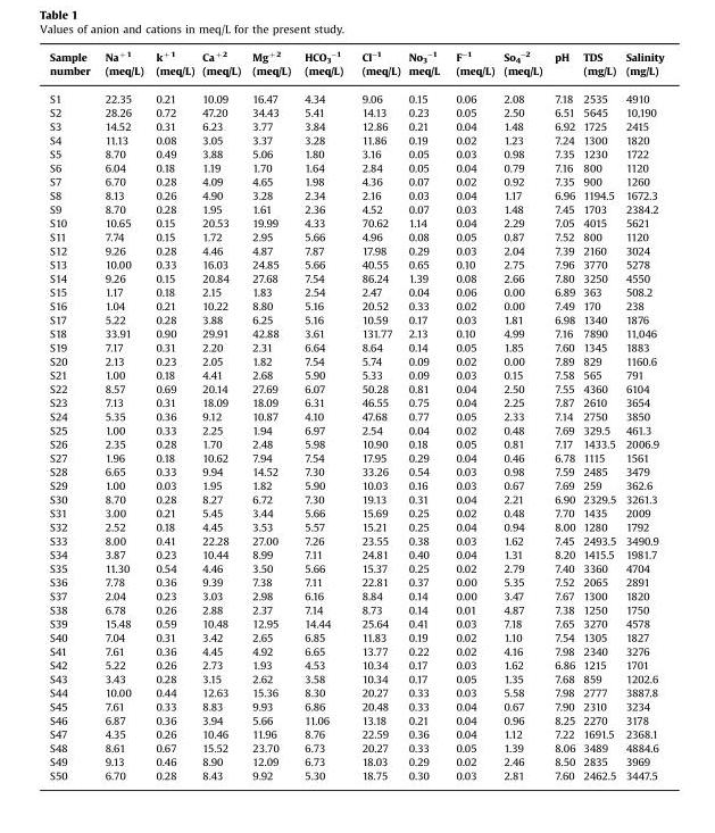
<table><thead><tr><td>Sample number</td><td>Na<sup>+1</sup> (meq/L)</td><td>k<sup>+1</sup> (meq/L)</td><td>Ca<sup>+2</sup> (meq/L)</td><td>Mg<sup>+2</sup> (meq/L)</td><td>HCO<sub>3</sub> <sup>−1</sup> (meq/L)</td><td>Cl<sup>−1</sup> (meq/L)</td><td>No<sub>3</sub> <sup>−1</sup> meq/L</td><td>F<sup>−1</sup> (meq/L)</td><td>So<sub>4</sub> <sup>−2</sup> (meq/L)</td><td>pH</td><td>TDS (mg/L)</td><td>Salinity (mg/L)</td></tr></thead><tbody><tr><td>S1</td><td>22.35</td><td>0.21</td><td>10.09</td><td>16.47</td><td>4.34</td><td>9.06</td><td>0.15</td><td>0.06</td><td>2.08</td><td>7.18</td><td>2535</td><td>4910</td></tr><tr><td>S2</td><td>28.26</td><td>0.72</td><td>47.20</td><td>34.43</td><td>5.41</td><td>14.13</td><td>0.23</td><td>0.05</td><td>2.50</td><td>6.51</td><td>5645</td><td>10,190</td></tr><tr><td>S3</td><td>14.52</td><td>0.31</td><td>6.23</td><td>3.77</td><td>3.84</td><td>12.86</td><td>0.21</td><td>0.04</td><td>1.48</td><td>6.92</td><td>1725</td><td>2415</td></tr><tr><td>S4</td><td>11.13</td><td>0.08</td><td>3.05</td><td>3.37</td><td>3.28</td><td>11.86</td><td>0.19</td><td>0.02</td><td>1.23</td><td>7.24</td><td>1300</td><td>1820</td></tr><tr><td>S5</td><td>8.70</td><td>0.49</td><td>3.88</td><td>5.06</td><td>1.80</td><td>3.16</td><td>0.05</td><td>0.03</td><td>0.98</td><td>7.35</td><td>1230</td><td>1722</td></tr><tr><td>S6</td><td>6.04</td><td>0.18</td><td>1.19</td><td>1.70</td><td>1.64</td><td>2.84</td><td>0.05</td><td>0.04</td><td>0.79</td><td>7.16</td><td>800</td><td>1120</td></tr><tr><td>S7</td><td>6.70</td><td>0.28</td><td>4.09</td><td>4.65</td><td>1.98</td><td>4.36</td><td>0.07</td><td>0.02</td><td>0.92</td><td>7.35</td><td>900</td><td>1260</td></tr><tr><td>S8</td><td>8.13</td><td>0.26</td><td>4.90</td><td>3.28</td><td>2.34</td><td>2.16</td><td>0.03</td><td>0.04</td><td>1.17</td><td>6.96</td><td>1194.5</td><td>1672.3</td></tr><tr><td>S9</td><td>8.70</td><td>0.28</td><td>1.95</td><td>1.61</td><td>2.36</td><td>4.52</td><td>0.07</td><td>0.03</td><td>1.48</td><td>7.45</td><td>1703</td><td>2384.2</td></tr><tr><td>S10</td><td>10.65</td><td>0.15</td><td>20.53</td><td>19.99</td><td>4.33</td><td>70.62</td><td>1.14</td><td>0.04</td><td>2.29</td><td>7.05</td><td>4015</td><td>5621</td></tr><tr><td>S11</td><td>7.74</td><td>0.15</td><td>1.72</td><td>2.95</td><td>5.66</td><td>4.96</td><td>0.08</td><td>0.05</td><td>0.87</td><td>7.52</td><td>800</td><td>1120</td></tr><tr><td>S12</td><td>9.26</td><td>0.28</td><td>4.46</td><td>4.87</td><td>7.87</td><td>17.98</td><td>0.29</td><td>0.03</td><td>2.04</td><td>7.39</td><td>2160</td><td>3024</td></tr><tr><td>S13</td><td>10.00</td><td>0.33</td><td>16.03</td><td>24.85</td><td>5.66</td><td>40.55</td><td>0.65</td><td>0.10</td><td>2.75</td><td>7.96</td><td>3770</td><td>5278</td></tr><tr><td>S14</td><td>9.26</td><td>0.15</td><td>20.84</td><td>27.68</td><td>7.54</td><td>86.24</td><td>1.39</td><td>0.08</td><td>2.66</td><td>7.80</td><td>3250</td><td>4550</td></tr><tr><td>S15</td><td>1.17</td><td>0.18</td><td>2.15</td><td>1.83</td><td>2.54</td><td>2.47</td><td>0.04</td><td>0.06</td><td>0.00</td><td>6.89</td><td>363</td><td>508.2</td></tr><tr><td>S16</td><td>1.04</td><td>0.21</td><td>10.22</td><td>8.80</td><td>5.16</td><td>20.52</td><td>0.33</td><td>0.02</td><td>0.00</td><td>7.49</td><td>170</td><td>238</td></tr><tr><td>S17</td><td>5.22</td><td>0.28</td><td>3.88</td><td>6.25</td><td>5.16</td><td>10.59</td><td>0.17</td><td>0.03</td><td>1.81</td><td>6.98</td><td>1340</td><td>1876</td></tr><tr><td>S18</td><td>33.91</td><td>0.90</td><td>29.91</td><td>42.88</td><td>3.61</td><td>131.77</td><td>2.13</td><td>0.10</td><td>4.99</td><td>7.16</td><td>7890</td><td>11,046</td></tr><tr><td>S19</td><td>7.17</td><td>0.31</td><td>2.20</td><td>2.31</td><td>6.64</td><td>8.64</td><td>0.14</td><td>0.05</td><td>1.85</td><td>7.60</td><td>1345</td><td>1883</td></tr><tr><td>S20</td><td>2.13</td><td>0.23</td><td>2.05</td><td>1.82</td><td>7.54</td><td>5.74</td><td>0.09</td><td>0.02</td><td>0.00</td><td>7.89</td><td>829</td><td>1160.6</td></tr><tr><td>S21</td><td>1.00</td><td>0.18</td><td>4.41</td><td>2.68</td><td>5.90</td><td>5.33</td><td>0.09</td><td>0.03</td><td>0.15</td><td>7.58</td><td>565</td><td>791</td></tr><tr><td>S22</td><td>8.57</td><td>0.69</td><td>20.14</td><td>27.69</td><td>6.07</td><td>50.28</td><td>0.81</td><td>0.04</td><td>2.50</td><td>7.55</td><td>4360</td><td>6104</td></tr><tr><td>S23</td><td>7.13</td><td>0.31</td><td>18.09</td><td>18.09</td><td>6.31</td><td>46.55</td><td>0.75</td><td>0.04</td><td>2.25</td><td>7.87</td><td>2610</td><td>3654</td></tr><tr><td>S24</td><td>5.35</td><td>0.36</td><td>9.12</td><td>10.87</td><td>4.10</td><td>47.68</td><td>0.77</td><td>0.05</td><td>2.33</td><td>7.14</td><td>2750</td><td>3850</td></tr><tr><td>S25</td><td>1.00</td><td>0.33</td><td>2.25</td><td>1.94</td><td>6.97</td><td>2.54</td><td>0.04</td><td>0.02</td><td>0.48</td><td>7.69</td><td>329.5</td><td>461.3</td></tr><tr><td>S26</td><td>2.35</td><td>0.28</td><td>1.70</td><td>2.48</td><td>5.98</td><td>10.90</td><td>0.18</td><td>0.05</td><td>0.81</td><td>7.17</td><td>1433.5</td><td>2006.9</td></tr><tr><td>S27</td><td>1.96</td><td>0.18</td><td>10.62</td><td>7.94</td><td>7.54</td><td>17.95</td><td>0.29</td><td>0.04</td><td>0.46</td><td>6.78</td><td>1115</td><td>1561</td></tr><tr><td>S28</td><td>6.65</td><td>0.33</td><td>9.94</td><td>14.52</td><td>7.30</td><td>33.26</td><td>0.54</td><td>0.03</td><td>0.98</td><td>7.59</td><td>2485</td><td>3479</td></tr><tr><td>S29</td><td>1.00</td><td>0.03</td><td>1.95</td><td>1.82</td><td>5.90</td><td>10.03</td><td>0.16</td><td>0.03</td><td>0.67</td><td>7.69</td><td>259</td><td>362.6</td></tr><tr><td>S30</td><td>8.70</td><td>0.28</td><td>8.27</td><td>6.72</td><td>7.30</td><td>19.13</td><td>0.31</td><td>0.04</td><td>2.21</td><td>6.90</td><td>2329.5</td><td>3261.3</td></tr><tr><td>S31</td><td>3.00</td><td>0.21</td><td>5.45</td><td>3.44</td><td>5.66</td><td>15.69</td><td>0.25</td><td>0.02</td><td>0.48</td><td>7.70</td><td>1435</td><td>2009</td></tr><tr><td>S32</td><td>2.52</td><td>0.18</td><td>4.45</td><td>3.53</td><td>5.57</td><td>15.21</td><td>0.25</td><td>0.04</td><td>0.94</td><td>8.00</td><td>1280</td><td>1792</td></tr><tr><td>S33</td><td>8.00</td><td>0.41</td><td>22.28</td><td>27.00</td><td>7.26</td><td>23.55</td><td>0.38</td><td>0.03</td><td>1.62</td><td>7.45</td><td>2493.5</td><td>3490.9</td></tr><tr><td>S34</td><td>3.87</td><td>0.23</td><td>10.44</td><td>8.99</td><td>7.11</td><td>24.81</td><td>0.40</td><td>0.04</td><td>1.31</td><td>8.20</td><td>1415.5</td><td>1981.7</td></tr><tr><td>S35</td><td>11.30</td><td>0.54</td><td>4.46</td><td>3.50</td><td>5.66</td><td>15.37</td><td>0.25</td><td>0.02</td><td>2.79</td><td>7.40</td><td>3360</td><td>4704</td></tr><tr><td>S36</td><td>7.78</td><td>0.36</td><td>9.39</td><td>7.38</td><td>7.11</td><td>22.81</td><td>0.37</td><td>0.00</td><td>5.35</td><td>7.52</td><td>2065</td><td>2891</td></tr><tr><td>S37</td><td>2.04</td><td>0.23</td><td>3.03</td><td>2.98</td><td>6.16</td><td>8.84</td><td>0.14</td><td>0.00</td><td>3.47</td><td>7.67</td><td>1300</td><td>1820</td></tr><tr><td>S38</td><td>6.78</td><td>0.26</td><td>2.88</td><td>2.37</td><td>7.14</td><td>8.73</td><td>0.14</td><td>0.01</td><td>4.87</td><td>7.38</td><td>1250</td><td>1750</td></tr><tr><td>S39</td><td>15.48</td><td>0.59</td><td>10.48</td><td>12.95</td><td>14.44</td><td>25.64</td><td>0.41</td><td>0.03</td><td>7.18</td><td>7.65</td><td>3270</td><td>4578</td></tr><tr><td>S40</td><td>7.04</td><td>0.31</td><td>3.42</td><td>2.65</td><td>6.85</td><td>11.83</td><td>0.19</td><td>0.02</td><td>1.10</td><td>7.54</td><td>1305</td><td>1827</td></tr><tr><td>S41</td><td>7.61</td><td>0.36</td><td>4.45</td><td>4.92</td><td>6.65</td><td>13.77</td><td>0.22</td><td>0.02</td><td>4.16</td><td>7.98</td><td>2340</td><td>3276</td></tr><tr><td>S42</td><td>5.22</td><td>0.26</td><td>2.73</td><td>1.93</td><td>4.53</td><td>10.34</td><td>0.17</td><td>0.03</td><td>1.62</td><td>6.86</td><td>1215</td><td>1701</td></tr><tr><td>S43</td><td>3.43</td><td>0.28</td><td>3.15</td><td>2.62</td><td>3.58</td><td>10.34</td><td>0.17</td><td>0.05</td><td>1.35</td><td>7.68</td><td>859</td><td>1202.6</td></tr><tr><td>S44</td><td>10.00</td><td>0.44</td><td>12.63</td><td>15.36</td><td>8.30</td><td>20.27</td><td>0.33</td><td>0.03</td><td>5.58</td><td>7.98</td><td>2777</td><td>3887.8</td></tr><tr><td>S45</td><td>7.61</td><td>0.33</td><td>8.83</td><td>9.93</td><td>6.86</td><td>20.48</td><td>0.33</td><td>0.04</td><td>0.67</td><td>7.90</td><td>2310</td><td>3234</td></tr><tr><td>S46</td><td>6.87</td><td>0.36</td><td>3.94</td><td>5.66</td><td>11.06</td><td>13.18</td><td>0.21</td><td>0.04</td><td>0.96</td><td>8.25</td><td>2270</td><td>3178</td></tr><tr><td>S47</td><td>4.35</td><td>0.26</td><td>10.46</td><td>11.96</td><td>8.76</td><td>22.59</td><td>0.36</td><td>0.04</td><td>1.12</td><td>7.22</td><td>1691.5</td><td>2368.1</td></tr><tr><td>S48</td><td>8.61</td><td>0.67</td><td>15.52</td><td>23.70</td><td>6.73</td><td>20.27</td><td>0.33</td><td>0.05</td><td>1.39</td><td>8.06</td><td>3489</td><td>4884.6</td></tr><tr><td>S49</td><td>9.13</td><td>0.46</td><td>8.90</td><td>12.09</td><td>6.73</td><td>18.03</td><td>0.29</td><td>0.02</td><td>2.46</td><td>8.50</td><td>2835</td><td>3969</td></tr><tr><td>S50</td><td>6.70</td><td>0.28</td><td>8.43</td><td>9.92</td><td>5.30</td><td>18.75</td><td>0.30</td><td>0.03</td><td>2.81</td><td>7.60</td><td>2462.5</td><td>3447.5</td></tr></tbody></table>